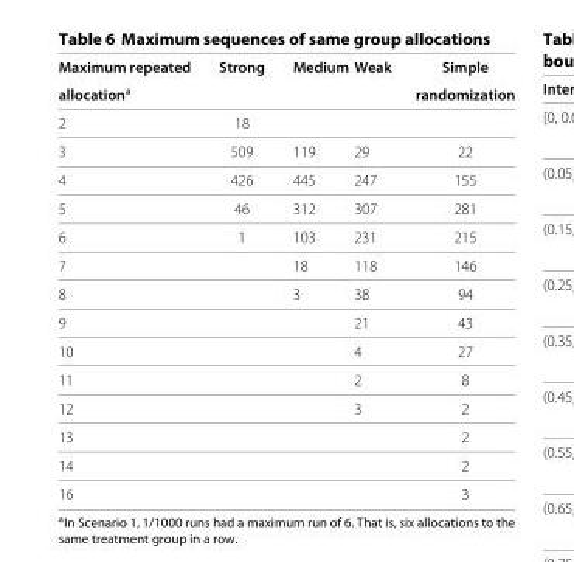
<table><thead><tr><td rowspan="2">Maximum repeated allocation<sup>a</sup></td><td rowspan="2">Strong</td><td rowspan="2">Medium</td><td rowspan="2">Weak</td><td rowspan="2">Simple randomization</td></tr><tr></tr></thead><tbody><tr><td>2</td><td>18</td><td></td><td></td><td></td></tr><tr><td>3</td><td>509</td><td>119</td><td>29</td><td>22</td></tr><tr><td>4</td><td>426</td><td>445</td><td>247</td><td>155</td></tr><tr><td>5</td><td>46</td><td>312</td><td>307</td><td>281</td></tr><tr><td>6</td><td>1</td><td>103</td><td>231</td><td>215</td></tr><tr><td>7</td><td></td><td>18</td><td>118</td><td>146</td></tr><tr><td>8</td><td></td><td>3</td><td>38</td><td>94</td></tr><tr><td>9</td><td></td><td></td><td>21</td><td>43</td></tr><tr><td>10</td><td></td><td></td><td>4</td><td>27</td></tr><tr><td>11</td><td></td><td></td><td>2</td><td>8</td></tr><tr><td>12</td><td></td><td></td><td>3</td><td>2</td></tr><tr><td>13</td><td></td><td></td><td></td><td>2</td></tr><tr><td>14</td><td></td><td></td><td></td><td>2</td></tr><tr><td>16</td><td></td><td></td><td></td><td>3</td></tr></tbody></table>